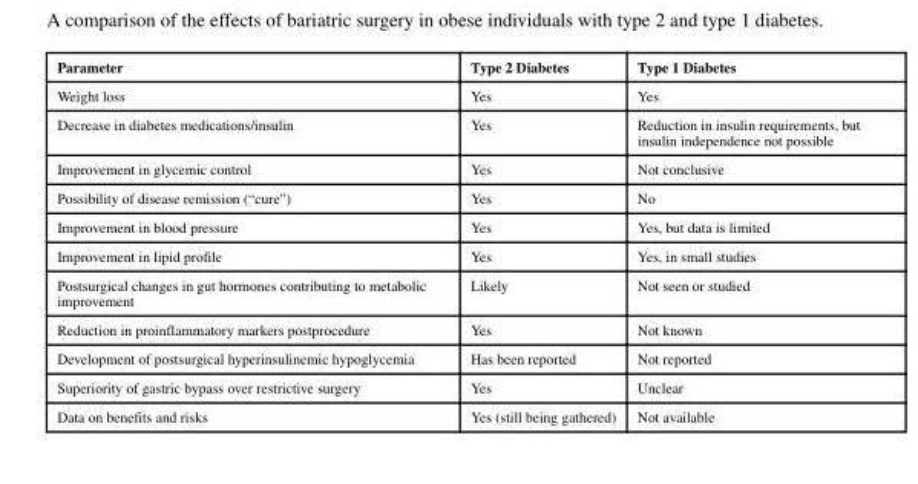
<table><thead><tr><td>Parameter</td><td>Type 2 Diabetes</td><td>Type 1 Diabetes</td></tr></thead><tbody><tr><td>Weight loss</td><td>Yes</td><td>Yes</td></tr><tr><td>Decrease in diabetes medications/insulin</td><td>Yes</td><td>Reduction in insulin requirements, but insulin independence not possible</td></tr><tr><td>Improvement in glycemic control</td><td>Yes</td><td>Not conclusive</td></tr><tr><td>Possibility of disease remission (“cure”)</td><td>Yes</td><td>No</td></tr><tr><td>Improvement in blood pressure</td><td>Yes</td><td>Yes, but data is limited</td></tr><tr><td>Improvement in lipid profile</td><td>Yes</td><td>Yes, in small studies</td></tr><tr><td>Postsurgical changes in gut hormones contributing to metabolic improvement</td><td>Likely</td><td>Not seen or studied</td></tr><tr><td>Reduction in proinflammatory markers postprocedure</td><td>Yes</td><td>Not known</td></tr><tr><td>Development of postsurgical hyperinsulinemic hypoglycemia</td><td>Has been reported</td><td>Not reported</td></tr><tr><td>Superiority of gastric bypass over restrictive surgery</td><td>Yes</td><td>Unclear</td></tr><tr><td>Data on benefits and risks</td><td>Yes (still being gathered)</td><td>Not available</td></tr></tbody></table>